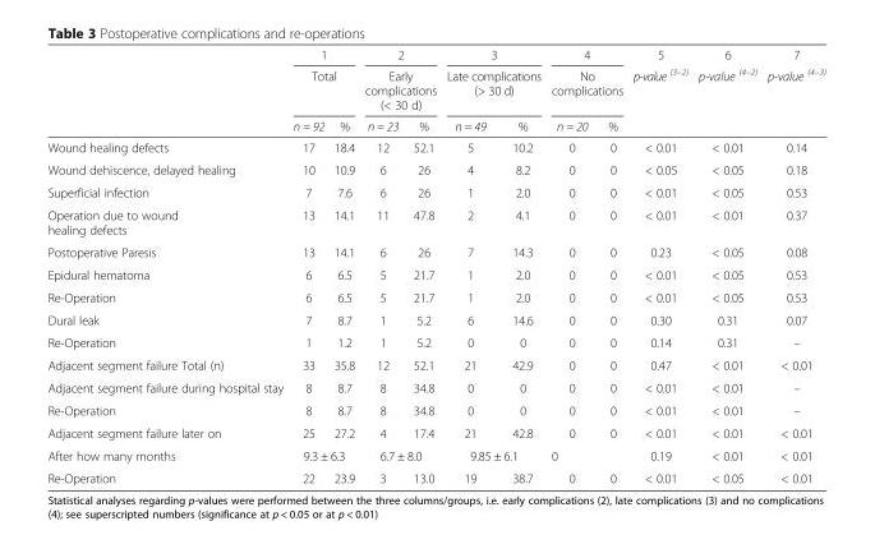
<table><thead><tr><td rowspan="3"></td><td rowspan="2" colspan="2">1 Total</td><td rowspan="2" colspan="2">2 Early complications (&lt; 30 d)</td><td rowspan="2" colspan="2">3 Late complications (&gt; 30 d)</td><td rowspan="2" colspan="2">4 No complications</td><td rowspan="3">5 p-value (3–2)</td><td rowspan="3">6 p-value (4–2)</td><td rowspan="3">7 p-value (4–3)</td></tr><tr></tr><tr><td>n = 92</td><td>%</td><td>n = 23</td><td>%</td><td>n = 49</td><td>%</td><td>n = 20</td><td>%</td></tr></thead><tbody><tr><td>Wound healing defects</td><td>17</td><td>18.4</td><td>12</td><td>52.1</td><td>5</td><td>10.2</td><td>0</td><td>0</td><td>&lt; 0.01</td><td>&lt; 0.01</td><td>0.14</td></tr><tr><td>Wound dehiscence, delayed healing</td><td>10</td><td>10.9</td><td>6</td><td>26</td><td>4</td><td>8.2</td><td>0</td><td>0</td><td>&lt; 0.05</td><td>&lt; 0.05</td><td>0.18</td></tr><tr><td>Superficial infection</td><td>7</td><td>7.6</td><td>6</td><td>26</td><td>1</td><td>2.0</td><td>0</td><td>0</td><td>&lt; 0.01</td><td>&lt; 0.05</td><td>0.53</td></tr><tr><td>Operation due to wound healing defects</td><td>13</td><td>14.1</td><td>11</td><td>47.8</td><td>2</td><td>4.1</td><td>0</td><td>0</td><td>&lt; 0.01</td><td>&lt; 0.01</td><td>0.37</td></tr><tr><td>Postoperative Paresis</td><td>13</td><td>14.1</td><td>6</td><td>26</td><td>7</td><td>14.3</td><td>0</td><td>0</td><td>0.23</td><td>&lt; 0.05</td><td>0.08</td></tr><tr><td>Epidural hematoma</td><td>6</td><td>6.5</td><td>5</td><td>21.7</td><td>1</td><td>2.0</td><td>0</td><td>0</td><td>&lt; 0.01</td><td>&lt; 0.05</td><td>0.53</td></tr><tr><td>Re-Operation</td><td>6</td><td>6.5</td><td>5</td><td>21.7</td><td>1</td><td>2.0</td><td>0</td><td>0</td><td>&lt; 0.01</td><td>&lt; 0.05</td><td>0.53</td></tr><tr><td>Dural leak</td><td>7</td><td>8.7</td><td>1</td><td>5.2</td><td>6</td><td>14.6</td><td>0</td><td>0</td><td>0.30</td><td>0.31</td><td>0.07</td></tr><tr><td>Re-Operation</td><td>1</td><td>1.2</td><td>1</td><td>5.2</td><td>0</td><td>0</td><td>0</td><td>0</td><td>0.14</td><td>0.31</td><td>–</td></tr><tr><td>Adjacent segment failure Total (n)</td><td>33</td><td>35.8</td><td>12</td><td>52.1</td><td>21</td><td>42.9</td><td>0</td><td>0</td><td>0.47</td><td>&lt; 0.01</td><td>&lt; 0.01</td></tr><tr><td>Adjacent segment failure during hospital stay</td><td>8</td><td>8.7</td><td>8</td><td>34.8</td><td>0</td><td>0</td><td>0</td><td>0</td><td>&lt; 0.01</td><td>&lt; 0.01</td><td>–</td></tr><tr><td>Re-Operation</td><td>8</td><td>8.7</td><td>8</td><td>34.8</td><td>0</td><td>0</td><td>0</td><td>0</td><td>&lt; 0.01</td><td>&lt; 0.01</td><td>–</td></tr><tr><td>Adjacent segment failure later on</td><td>25</td><td>27.2</td><td>4</td><td>17.4</td><td>21</td><td>42.8</td><td>0</td><td>0</td><td>&lt; 0.01</td><td>&lt; 0.01</td><td>&lt; 0.01</td></tr><tr><td>After how many months</td><td colspan="2">9.3 ± 6.3</td><td colspan="2">6.7 ± 8.0</td><td colspan="2">9.85 ± 6.1</td><td colspan="2">0</td><td>0.19</td><td>&lt; 0.01</td><td>&lt; 0.01</td></tr><tr><td>Re-Operation</td><td>22</td><td>23.9</td><td>3</td><td>13.0</td><td>19</td><td>38.7</td><td>0</td><td>0</td><td>&lt; 0.01</td><td>&lt; 0.05</td><td>&lt; 0.01</td></tr></tbody></table>